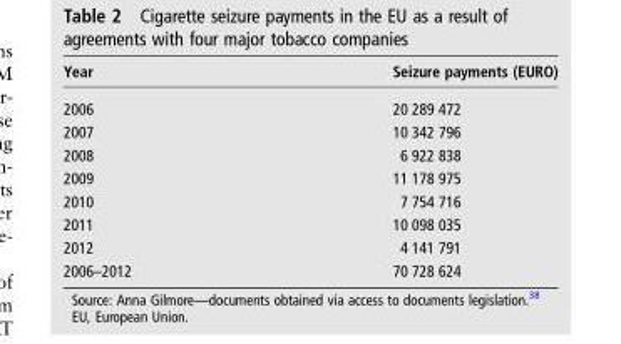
<table><thead><tr><td>Year</td><td>Seizure payments (EURO)</td></tr></thead><tbody><tr><td>2006</td><td>20 289 472</td></tr><tr><td>2007</td><td>10 342 796</td></tr><tr><td>2008</td><td>6 922 838</td></tr><tr><td>2009</td><td>11 178 975</td></tr><tr><td>2010</td><td>7 754 716</td></tr><tr><td>2011</td><td>10 098 035</td></tr><tr><td>2012</td><td>4 141 791</td></tr><tr><td>2006–2012</td><td>70 728 624</td></tr></tbody></table>